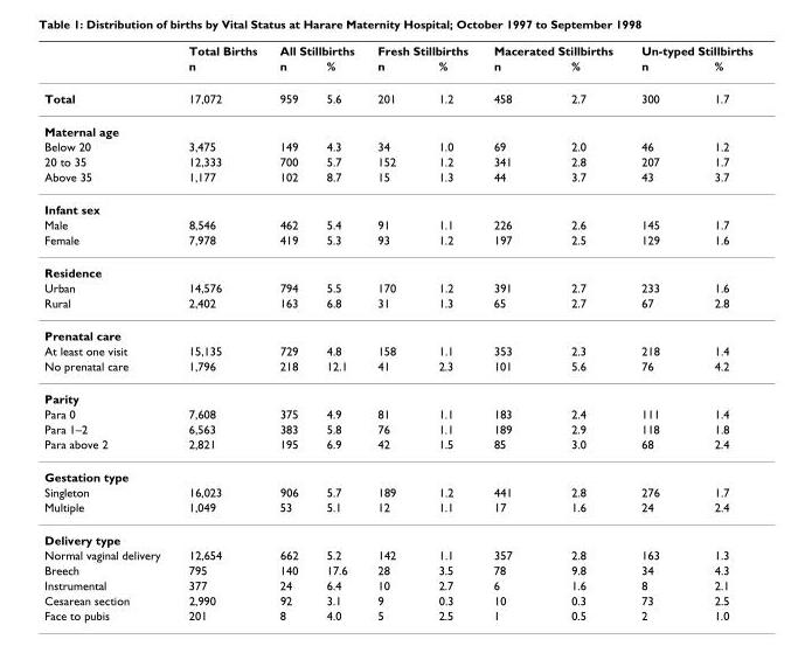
<table><thead><tr><td rowspan="2"></td><td rowspan="2">Total Births n</td><td colspan="2">All Stillbirths</td><td colspan="2">Fresh Stillbirths</td><td colspan="2">Macerated Stillbirths</td><td colspan="2">Un-typed Stillbirths</td></tr><tr><td>n</td><td>%</td><td>n</td><td>%</td><td>n</td><td>%</td><td>n</td><td>%</td></tr></thead><tbody><tr><td>Total</td><td>17,072</td><td>959</td><td>5.6</td><td>201</td><td>1.2</td><td>458</td><td>2.7</td><td>300</td><td>1.7</td></tr><tr><td colspan="10">Maternal age</td></tr><tr><td>Below 20</td><td>3,475</td><td>149</td><td>4.3</td><td>34</td><td>1.0</td><td>69</td><td>2.0</td><td>46</td><td>1.2</td></tr><tr><td>20 to 35</td><td>12,333</td><td>700</td><td>5.7</td><td>152</td><td>1.2</td><td>341</td><td>2.8</td><td>207</td><td>1.7</td></tr><tr><td>Above 35</td><td>1,177</td><td>102</td><td>8.7</td><td>15</td><td>1.3</td><td>44</td><td>3.7</td><td>43</td><td>3.7</td></tr><tr><td colspan="10">Infant sex</td></tr><tr><td>Male</td><td>8,546</td><td>462</td><td>5.4</td><td>91</td><td>1.1</td><td>226</td><td>2.6</td><td>145</td><td>1.7</td></tr><tr><td>Female</td><td>7,978</td><td>419</td><td>5.3</td><td>93</td><td>1.2</td><td>197</td><td>2.5</td><td>129</td><td>1.6</td></tr><tr><td colspan="10">Residence</td></tr><tr><td>Urban</td><td>14,576</td><td>794</td><td>5.5</td><td>170</td><td>1.2</td><td>391</td><td>2.7</td><td>233</td><td>1.6</td></tr><tr><td>Rural</td><td>2,402</td><td>163</td><td>6.8</td><td>31</td><td>1.3</td><td>65</td><td>2.7</td><td>67</td><td>2.8</td></tr><tr><td colspan="10">Prenatal care</td></tr><tr><td>At least one visit</td><td>15,135</td><td>729</td><td>4.8</td><td>158</td><td>1.1</td><td>353</td><td>2.3</td><td>218</td><td>1.4</td></tr><tr><td>No prenatal care</td><td>1,796</td><td>218</td><td>12.1</td><td>41</td><td>2.3</td><td>101</td><td>5.6</td><td>76</td><td>4.2</td></tr><tr><td colspan="10">Parity</td></tr><tr><td>Para 0</td><td>7,608</td><td>375</td><td>4.9</td><td>81</td><td>1.1</td><td>183</td><td>2.4</td><td>111</td><td>1.4</td></tr><tr><td>Para 1–2</td><td>6,563</td><td>383</td><td>5.8</td><td>76</td><td>1.1</td><td>189</td><td>2.9</td><td>118</td><td>1.8</td></tr><tr><td>Para above 2</td><td>2,821</td><td>195</td><td>6.9</td><td>42</td><td>1.5</td><td>85</td><td>3.0</td><td>68</td><td>2.4</td></tr><tr><td colspan="10">Gestation type</td></tr><tr><td>Singleton</td><td>16,023</td><td>906</td><td>5.7</td><td>189</td><td>1.2</td><td>441</td><td>2.8</td><td>276</td><td>1.7</td></tr><tr><td>Multiple</td><td>1,049</td><td>53</td><td>5.1</td><td>12</td><td>1.1</td><td>17</td><td>1.6</td><td>24</td><td>2.4</td></tr><tr><td colspan="10">Delivery type</td></tr><tr><td>Normal vaginal delivery</td><td>12,654</td><td>662</td><td>5.2</td><td>142</td><td>1.1</td><td>357</td><td>2.8</td><td>163</td><td>1.3</td></tr><tr><td>Breech</td><td>795</td><td>140</td><td>17.6</td><td>28</td><td>3.5</td><td>78</td><td>9.8</td><td>34</td><td>4.3</td></tr><tr><td>Instrumental</td><td>377</td><td>24</td><td>6.4</td><td>10</td><td>2.7</td><td>6</td><td>1.6</td><td>8</td><td>2.1</td></tr><tr><td>Cesarean section</td><td>2,990</td><td>92</td><td>3.1</td><td>9</td><td>0.3</td><td>10</td><td>0.3</td><td>73</td><td>2.5</td></tr><tr><td>Face to pubis</td><td>201</td><td>8</td><td>4.0</td><td>5</td><td>2.5</td><td>1</td><td>0.5</td><td>2</td><td>1.0</td></tr></tbody></table>